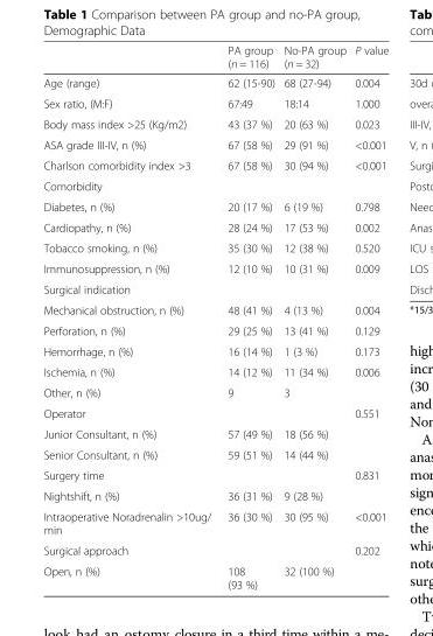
<table><thead><tr><td></td><td>PA group (n = 116)</td><td>No-PA group (n = 32)</td><td>P value</td></tr></thead><tbody><tr><td>Age (range)</td><td>62 (15-90)</td><td>68 (27-94)</td><td>0.004</td></tr><tr><td>Sex ratio, (M:F)</td><td>67:49</td><td>18:14</td><td>1.000</td></tr><tr><td>Body mass index &gt;25 (Kg/m2)</td><td>43 (37 %)</td><td>20 (63 %)</td><td>0.023</td></tr><tr><td>ASA grade III-IV, n (%)</td><td>67 (58 %)</td><td>29 (91 %)</td><td>&lt;0.001</td></tr><tr><td>Charlson comorbidity index &gt;3</td><td>67 (58 %)</td><td>30 (94 %)</td><td>&lt;0.001</td></tr><tr><td colspan="4">Comorbidity</td></tr><tr><td>Diabetes, n (%)</td><td>20 (17 %)</td><td>6 (19 %)</td><td>0.798</td></tr><tr><td>Cardiopathy, n (%)</td><td>28 (24 %)</td><td>17 (53 %)</td><td>0.002</td></tr><tr><td>Tobacco smoking, n (%)</td><td>35 (30 %)</td><td>12 (38 %)</td><td>0.520</td></tr><tr><td>Immunosuppression, n (%)</td><td>12 (10 %)</td><td>10 (31 %)</td><td>0.009</td></tr><tr><td colspan="4">Surgical indication</td></tr><tr><td>Mechanical obstruction, n (%)</td><td>48 (41 %)</td><td>4 (13 %)</td><td>0.004</td></tr><tr><td>Perforation, n (%)</td><td>29 (25 %)</td><td>13 (41 %)</td><td>0.129</td></tr><tr><td>Hemorrhage, n (%)</td><td>16 (14 %)</td><td>1 (3 %)</td><td>0.173</td></tr><tr><td>Ischemia, n (%)</td><td>14 (12 %)</td><td>11 (34 %)</td><td>0.006</td></tr><tr><td>Other, n (%)</td><td>9</td><td>3</td><td></td></tr><tr><td>Operator</td><td></td><td></td><td>0.551</td></tr><tr><td>Junior Consultant, n (%)</td><td>57 (49 %)</td><td>18 (56 %)</td><td></td></tr><tr><td>Senior Consultant, n (%)</td><td>59 (51 %)</td><td>14 (44 %)</td><td></td></tr><tr><td>Surgery time</td><td></td><td></td><td>0.831</td></tr><tr><td>Nightshift, n (%)</td><td>36 (31 %)</td><td>9 (28 %)</td><td></td></tr><tr><td>Intraoperative Noradrenalin &gt;10ug/ min</td><td>36 (30 %)</td><td>30 (95 %)</td><td>&lt;0.001</td></tr><tr><td>Surgical approach</td><td></td><td></td><td>0.202</td></tr><tr><td>Open, n (%)</td><td>108 (93 %)</td><td>32 (100 %)</td><td></td></tr></tbody></table>